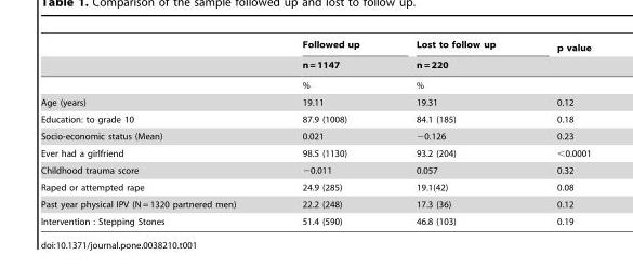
<table><thead><tr><td rowspan="2"></td><td rowspan="2">Followed up n = 1147</td><td rowspan="2">Lost to follow up n = 220</td><td rowspan="2">p value</td></tr><tr></tr></thead><tbody><tr><td></td><td>%</td><td>%</td><td></td></tr><tr><td>Age (years)</td><td>19.11</td><td>19.31</td><td>0.12</td></tr><tr><td>Education: to grade 10</td><td>87.9 (1008)</td><td>84.1 (185)</td><td>0.18</td></tr><tr><td>Socio-economic status (Mean)</td><td>0.021</td><td>−0.126</td><td>0.23</td></tr><tr><td>Ever had a girlfriend</td><td>98.5 (1130)</td><td>93.2 (204)</td><td>&lt;0.0001</td></tr><tr><td>Childhood trauma score</td><td>−0.011</td><td>0.057</td><td>0.32</td></tr><tr><td>Raped or attempted rape</td><td>24.9 (285)</td><td>19.1(42)</td><td>0.08</td></tr><tr><td>Past year physical IPV (N = 1320 partnered men)</td><td>22.2 (248)</td><td>17.3 (36)</td><td>0.12</td></tr><tr><td>Intervention : Stepping Stones</td><td>51.4 (590)</td><td>46.8 (103)</td><td>0.19</td></tr></tbody></table>